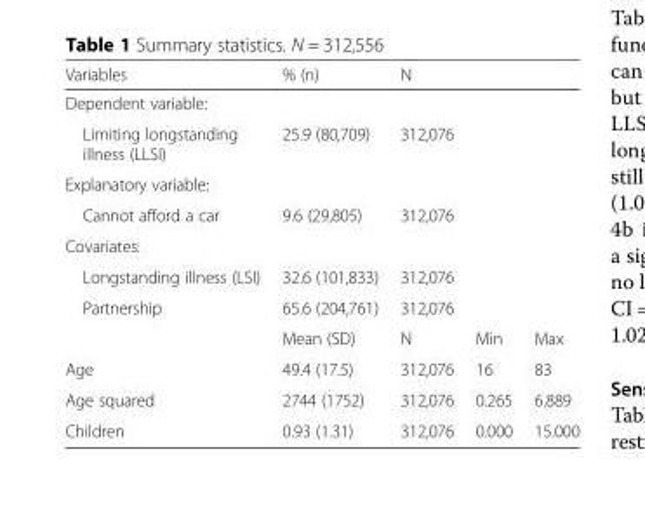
<table><thead><tr><td>Variables</td><td>% (n)</td><td>N</td><td></td><td></td></tr></thead><tbody><tr><td colspan="5">Dependent variable:</td></tr><tr><td>Limiting longstanding illness (LLSI)</td><td>25.9 (80,709)</td><td>312,076</td><td></td><td></td></tr><tr><td colspan="5">Explanatory variable:</td></tr><tr><td>Cannot afford a car</td><td>9.6 (29,805)</td><td>312,076</td><td></td><td></td></tr><tr><td colspan="5">Covariates:</td></tr><tr><td>Longstanding illness (LSI)</td><td>32.6 (101,833)</td><td>312,076</td><td></td><td></td></tr><tr><td rowspan="2">Partnership</td><td>65.6 (204,761)</td><td>312,076</td><td></td><td></td></tr><tr><td>Mean (SD)</td><td>N</td><td>Min</td><td>Max</td></tr><tr><td>Age</td><td>49.4 (17.5)</td><td>312,076</td><td>16</td><td>83</td></tr><tr><td>Age squared</td><td>2744 (1752)</td><td>312,076</td><td>0.265</td><td>6.889</td></tr><tr><td>Children</td><td>0.93 (1.31)</td><td>312,076</td><td>0.000</td><td>15.000</td></tr></tbody></table>